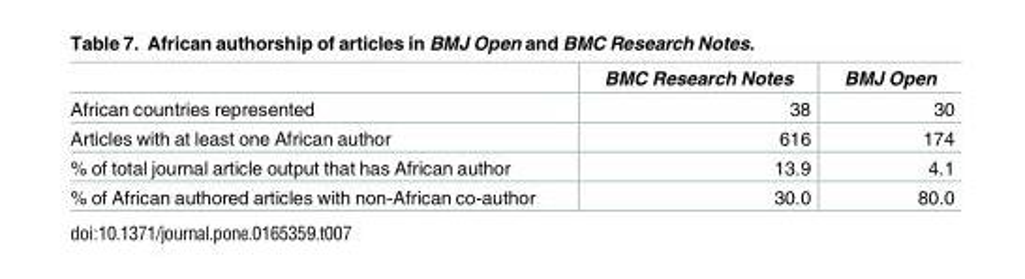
<table><thead><tr><td></td><td>BMC Research Notes</td><td>BMJ Open</td></tr></thead><tbody><tr><td>African countries represented</td><td>38</td><td>30</td></tr><tr><td>Articles with at least one African author</td><td>616</td><td>174</td></tr><tr><td>% of total journal article output that has African author</td><td>13.9</td><td>4.1</td></tr><tr><td>% of African authored articles with non-African co-author</td><td>30.0</td><td>80.0</td></tr></tbody></table>